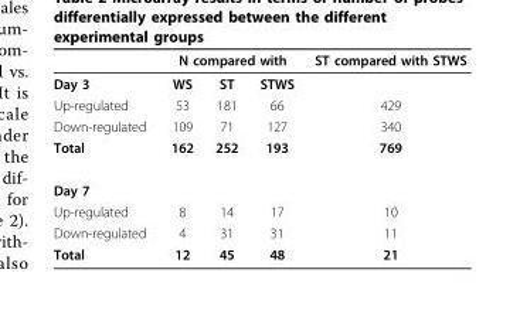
<table><thead><tr><td rowspan="2">Day 3</td><td colspan="3">N compared with</td><td rowspan="2">ST compared with STWS</td></tr><tr><td>WS</td><td>ST</td><td>STWS</td></tr></thead><tbody><tr><td>Up-regulated</td><td>53</td><td>181</td><td>66</td><td>429</td></tr><tr><td>Down-regulated</td><td>109</td><td>71</td><td>127</td><td>340</td></tr><tr><td>Total</td><td>162</td><td>252</td><td>193</td><td>769</td></tr><tr><td colspan="5">Day 7</td></tr><tr><td>Up-regulated</td><td>8</td><td>14</td><td>17</td><td>10</td></tr><tr><td>Down-regulated</td><td>4</td><td>31</td><td>31</td><td>11</td></tr><tr><td>Total</td><td>12</td><td>45</td><td>48</td><td>21</td></tr></tbody></table>